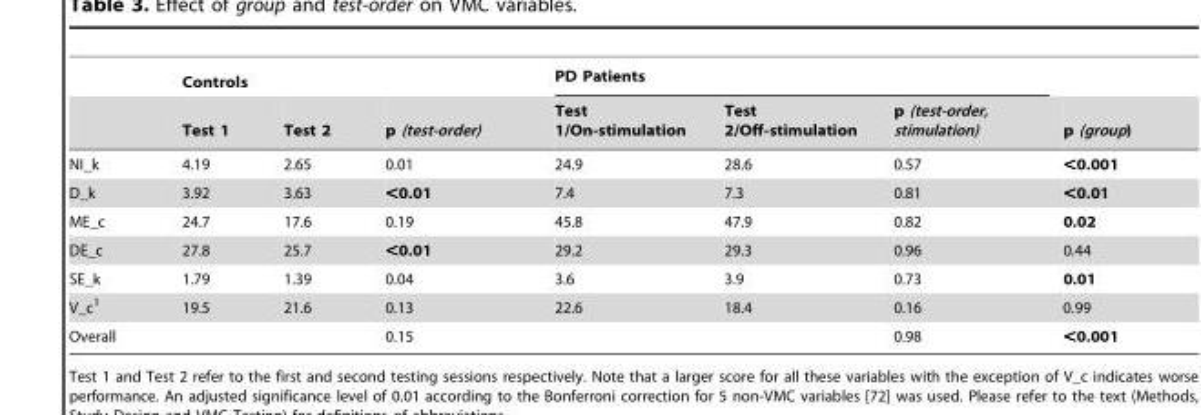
<table><thead><tr><td rowspan="2"></td><td colspan="3">Controls</td><td colspan="3">PD Patients</td><td rowspan="2">p (group)</td></tr><tr><td>Test 1</td><td>Test 2</td><td>p (test-order)</td><td>Test 1/On-stimulation</td><td>Test 2/Off-stimulation</td><td>p (test-order, stimulation)</td></tr></thead><tbody><tr><td>NI_k</td><td>4.19</td><td>2.65</td><td>0.01</td><td>24.9</td><td>28.6</td><td>0.57</td><td>&lt;0.001</td></tr><tr><td>D_k</td><td>3.92</td><td>3.63</td><td>&lt;0.01</td><td>7.4</td><td>7.3</td><td>0.81</td><td>&lt;0.01</td></tr><tr><td>ME_c</td><td>24.7</td><td>17.6</td><td>0.19</td><td>45.8</td><td>47.9</td><td>0.82</td><td>0.02</td></tr><tr><td>DE_c</td><td>27.8</td><td>25.7</td><td>&lt;0.01</td><td>29.2</td><td>29.3</td><td>0.96</td><td>0.44</td></tr><tr><td>SE_k</td><td>1.79</td><td>1.39</td><td>0.04</td><td>3.6</td><td>3.9</td><td>0.73</td><td>0.01</td></tr><tr><td>V_c<sup>1</sup></td><td>19.5</td><td>21.6</td><td>0.13</td><td>22.6</td><td>18.4</td><td>0.16</td><td>0.99</td></tr><tr><td>Overall</td><td></td><td></td><td>0.15</td><td></td><td></td><td>0.98</td><td>&lt;0.001</td></tr></tbody></table>